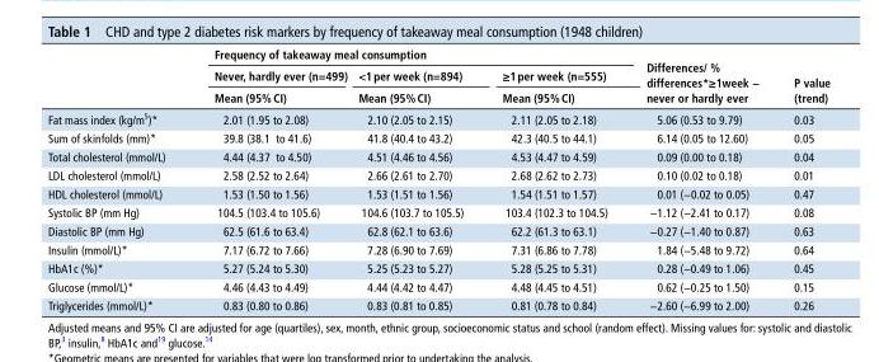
<table><thead><tr><td rowspan="3"></td><td colspan="3">Frequency of takeaway meal consumption</td><td rowspan="3">Differences/ % differences*≥1week − never or hardly ever</td><td rowspan="3">P value (trend)</td></tr><tr><td rowspan="2">never, hardly ever (n=499) Mean (95% CI)</td><td rowspan="2">&lt;1 per week (n=894) Mean (95% CI)</td><td rowspan="2">≥1 per week (n=555) Mean (95% CI)</td></tr><tr></tr></thead><tbody><tr><td>Fat mass index (kg/m<sup>5</sup>)*</td><td>2.01 (1.95 to 2.08)</td><td>2.10 (2.05 to 2.15)</td><td>2.11 (2.05 to 2.18)</td><td>5.06 (0.53 to 9.79)</td><td>0.03</td></tr><tr><td>Sum of skinfolds (mm)*</td><td>39.8 (38.1 to 41.6)</td><td>41.8 (40.4 to 43.2)</td><td>42.3 (40.5 to 44.1)</td><td>6.14 (0.05 to 12.60)</td><td>0.05</td></tr><tr><td>Total cholesterol (mmol/L)</td><td>4.44 (4.37 to 4.50)</td><td>4.51 (4.46 to 4.56)</td><td>4.53 (4.47 to 4.59)</td><td>0.09 (0.00 to 0.18)</td><td>0.04</td></tr><tr><td>LDL cholesterol (mmol/L)</td><td>2.58 (2.52 to 2.64)</td><td>2.66 (2.61 to 2.70)</td><td>2.68 (2.62 to 2.73)</td><td>0.10 (0.02 to 0.18)</td><td>0.01</td></tr><tr><td>HDL cholesterol (mmol/L)</td><td>1.53 (1.50 to 1.56)</td><td>1.53 (1.51 to 1.56)</td><td>1.54 (1.51 to 1.57)</td><td>0.01 (−0.02 to 0.05)</td><td>0.47</td></tr><tr><td>Systolic BP (mm Hg)</td><td>104.5 (103.4 to 105.6)</td><td>104.6 (103.7 to 105.5)</td><td>103.4 (102.3 to 104.5)</td><td>−1.12 (−2.41 to 0.17)</td><td>0.08</td></tr><tr><td>Diastolic BP (mm Hg)</td><td>62.5 (61.6 to 63.4)</td><td>62.8 (62.1 to 63.6)</td><td>62.2 (61.3 to 63.1)</td><td>−0.27 (−1.40 to 0.87)</td><td>0.63</td></tr><tr><td>Insulin (mmol/L)*</td><td>7.17 (6.72 to 7.66)</td><td>7.28 (6.90 to 7.69)</td><td>7.31 (6.86 to 7.78)</td><td>1.84 (−5.48 to 9.72)</td><td>0.64</td></tr><tr><td>HbA1c (%)*</td><td>5.27 (5.24 to 5.30)</td><td>5.25 (5.23 to 5.27)</td><td>5.28 (5.25 to 5.31)</td><td>0.28 (−0.49 to 1.06)</td><td>0.45</td></tr><tr><td>Glucose (mmol/L)*</td><td>4.46 (4.43 to 4.49)</td><td>4.44 (4.42 to 4.47)</td><td>4.48 (4.45 to 4.51)</td><td>0.62 (−0.25 to 1.50)</td><td>0.15</td></tr><tr><td>Triglycerides (mmol/L)*</td><td>0.83 (0.80 to 0.86)</td><td>0.83 (0.81 to 0.85)</td><td>0.81 (0.78 to 0.84)</td><td>−2.60 (−6.99 to 2.00)</td><td>0.26</td></tr></tbody></table>